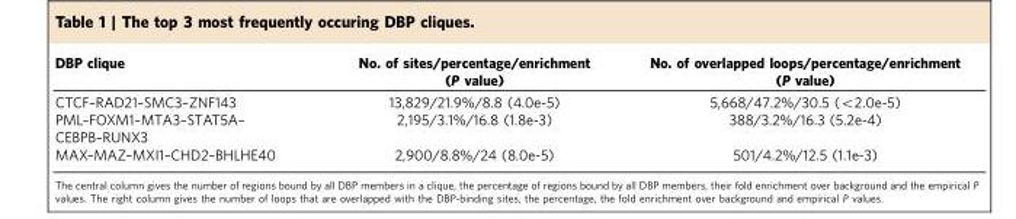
<table><thead><tr><td>DBP clique</td><td>No. of sites/percentage/enrichment (P value)</td><td>No. of overlapped loops/percentage/enrichment (P value)</td></tr></thead><tbody><tr><td>CTCF–RAD21–SMC3–ZNF143</td><td>13,829/21.9%/8.8 (4.0e-5)</td><td>5,668/47.2%/30.5 (&lt;2.0e-5)</td></tr><tr><td>PML–FOXM1–MTA3–STAT5A– CEBPB–RUNX3</td><td>2,195/3.1%/16.8 (1.8e-3)</td><td>388/3.2%/16.3 (5.2e-4)</td></tr><tr><td>MAX–MAZ–MXI1–CHD2–BHLHE40</td><td>2,900/8.8%/24 (8.0e-5)</td><td>501/4.2%/12.5 (1.1e-3)</td></tr></tbody></table>